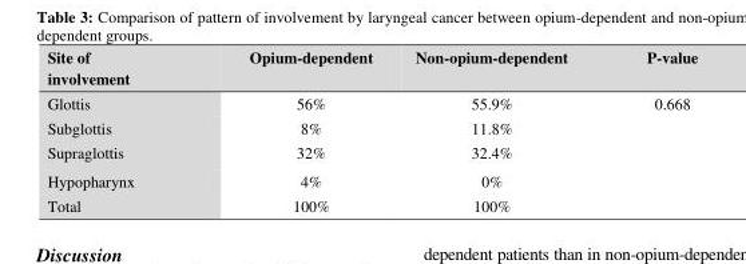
<table><tbody><tr><td>Site of involvement</td><td>Opium-dependent</td><td>Non-opium-dependent</td><td>P-value</td></tr><tr><td>Glottis</td><td>56%</td><td>55.9%</td><td rowspan="5">0.668</td></tr><tr><td>Subglottis</td><td>8%</td><td>11.8%</td></tr><tr><td>Supraglottis</td><td>32%</td><td>32.4%</td></tr><tr><td>Hypopharynx</td><td>4%</td><td>0%</td></tr><tr><td>Total</td><td>100%</td><td>100%</td></tr></tbody></table>